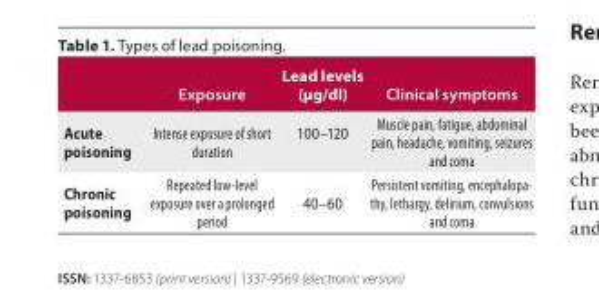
<table><thead><tr><td></td><td>Exposure</td><td>Lead levels (μg/dl)</td><td>Clinical symptoms</td></tr></thead><tbody><tr><td>Acute poisoning</td><td>Intense exposure of short duration</td><td>100–120</td><td>Muscle pain, fatigue, abdominal pain, headache, vomiting, seizures and coma</td></tr><tr><td>Chronic poisoning</td><td>Repeated low-level exposure over a prolonged period</td><td>40–60</td><td>Persistent vomiting, encephalopa- thy, lethargy, delirium, convulsions and coma</td></tr></tbody></table>